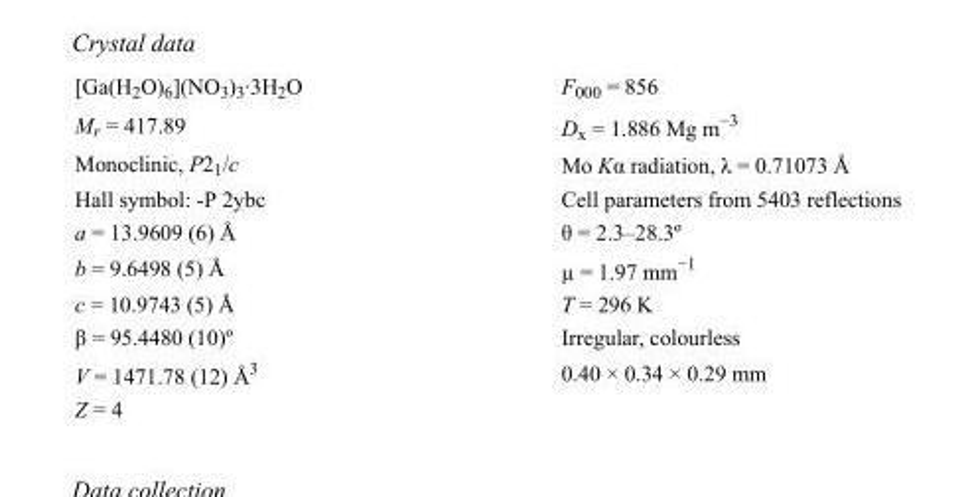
<table><tbody><tr><td>[Ga(H<sub>2</sub>O)<sub>6</sub>](NO<sub>3</sub>)<sub>3</sub>·3H<sub>2</sub>O</td><td>F000 = 856</td></tr><tr><td>M<sub>r</sub> = 417.89</td><td>D<sub>x</sub> = 1.886 Mg m<sup>−3</sup></td></tr><tr><td>Monoclinic, P2<sub>1</sub>/c</td><td>Mo Kα radiation, λ = 0.71073 Å</td></tr><tr><td>Hall symbol: -P 2ybc</td><td>Cell parameters from 5403 reflections</td></tr><tr><td>a = 13.9609 (6) Å</td><td>θ = 2.3–28.3º</td></tr><tr><td>b = 9.6498 (5) Å</td><td>µ = 1.97 mm<sup>−1</sup></td></tr><tr><td>c = 10.9743 (5) Å</td><td>T = 296 K</td></tr><tr><td>β = 95.4480 (10)º</td><td>Irregular, colourless</td></tr><tr><td>V = 1471.78 (12) Å<sup>3</sup></td><td>0.40 × 0.34 × 0.29 mm</td></tr><tr><td>Z = 4</td><td></td></tr></tbody></table>